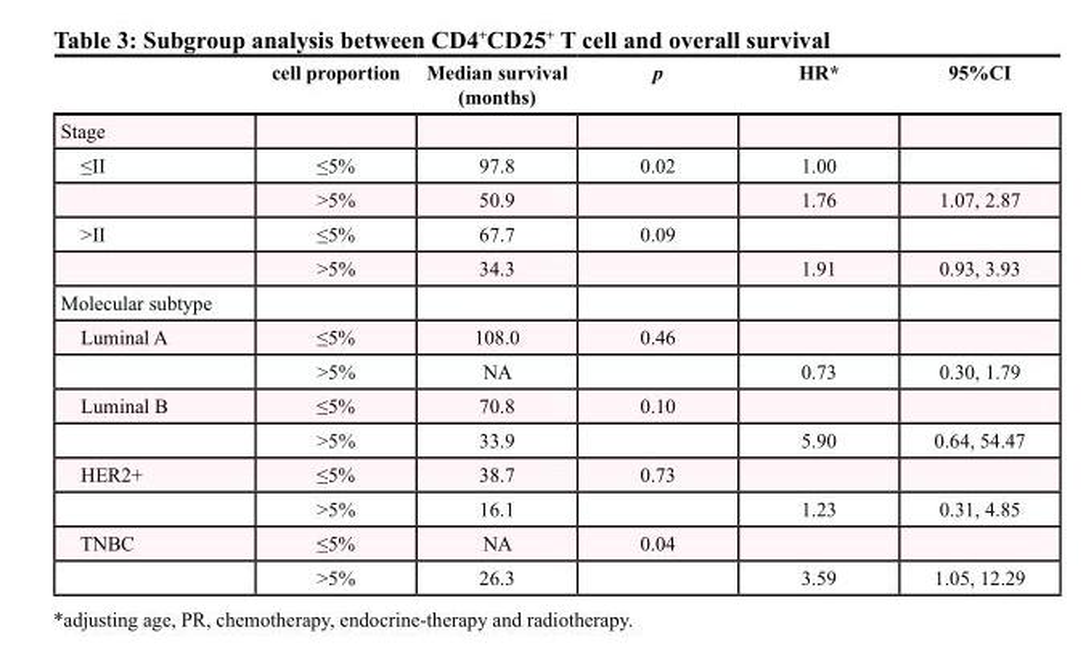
<table><thead><tr><td></td><td>cell proportion</td><td>Median survival (months)</td><td>p</td><td>HR*</td><td>95%CI</td></tr></thead><tbody><tr><td colspan="6">Stage</td></tr><tr><td rowspan="2">≤II</td><td>≤5%</td><td>97.8</td><td>0.02</td><td>1.00</td><td></td></tr><tr><td>&gt;5%</td><td>50.9</td><td></td><td>1.76</td><td>1.07, 2.87</td></tr><tr><td rowspan="2">&gt;II</td><td>≤5%</td><td>67.7</td><td>0.09</td><td></td><td></td></tr><tr><td>&gt;5%</td><td>34.3</td><td></td><td>1.91</td><td>0.93, 3.93</td></tr><tr><td colspan="6">Molecular subtype</td></tr><tr><td rowspan="2">Luminal A</td><td>≤5%</td><td>108.0</td><td>0.46</td><td></td><td></td></tr><tr><td>&gt;5%</td><td>NA</td><td></td><td>0.73</td><td>0.30, 1.79</td></tr><tr><td rowspan="2">Luminal B</td><td>≤5%</td><td>70.8</td><td>0.10</td><td></td><td></td></tr><tr><td>&gt;5%</td><td>33.9</td><td></td><td>5.90</td><td>0.64, 54.47</td></tr><tr><td rowspan="2">HER2+</td><td>≤5%</td><td>38.7</td><td>0.73</td><td></td><td></td></tr><tr><td>&gt;5%</td><td>16.1</td><td></td><td>1.23</td><td>0.31, 4.85</td></tr><tr><td rowspan="2">TNBC</td><td>≤5%</td><td>NA</td><td>0.04</td><td></td><td></td></tr><tr><td>&gt;5%</td><td>26.3</td><td></td><td>3.59</td><td>1.05, 12.29</td></tr></tbody></table>